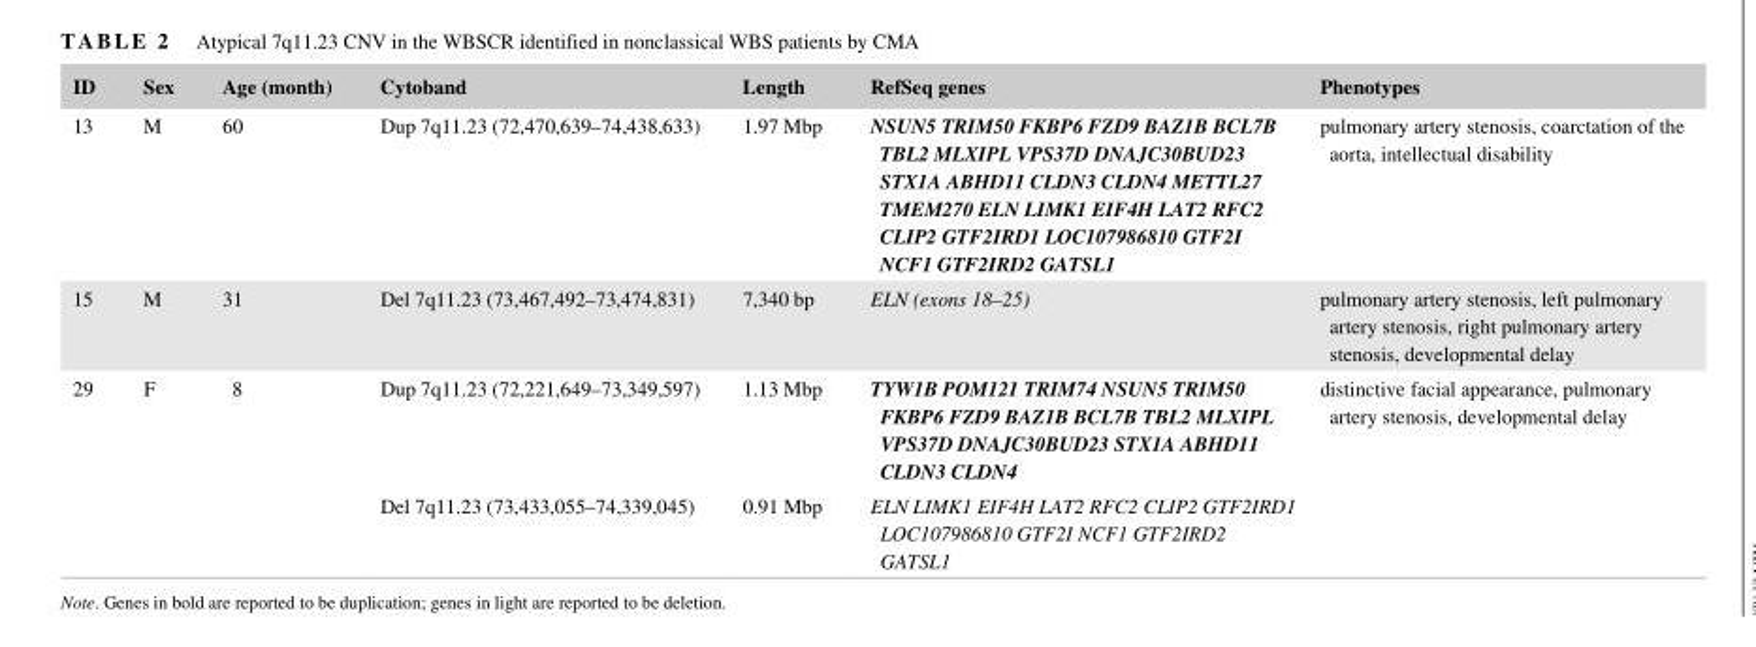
<table><thead><tr><td>ID</td><td>Sex</td><td>Age (month)</td><td>Cytoband</td><td>Length</td><td>RefSeq genes</td><td>Phenotypes</td></tr></thead><tbody><tr><td>13</td><td>M</td><td>60</td><td>Dup 7q11.23 (72,470,639–74,438,633)</td><td>1.97 Mbp</td><td>NSUN5 TRIM50 FKBP6 FZD9 BAZ1B BCL7B TBL2 MLXIPL VPS37D DNAJC30BUD23 STX1A ABHD11 CLDN3 CLDN4 METTL27 TMEM270 ELN LIMK1 EIF4H LAT2 RFC2 CLIP2 GTF2IRD1 LOC107986810 GTF2I NCF1 GTF2IRD2 GATSL1</td><td>pulmonary artery stenosis, coarctation of the aorta, intellectual disability</td></tr><tr><td>15</td><td>M</td><td>31</td><td>Del 7q11.23 (73,467,492–73,474,831)</td><td>7,340 bp</td><td>ELN (exons 18–25)</td><td>pulmonary artery stenosis, left pulmonary artery stenosis, right pulmonary artery stenosis, developmental delay</td></tr><tr><td rowspan="2">29</td><td rowspan="2">F</td><td rowspan="2">8</td><td>Dup 7q11.23 (72,221,649–73,349,597)</td><td>1.13 Mbp</td><td>TYW1B POM121 TRIM74 NSUN5 TRIM50 FKBP6 FZD9 BAZ1B BCL7B TBL2 MLXIPL VPS37D DNAJC30BUD23 STX1A ABHD11 CLDN3 CLDN4</td><td rowspan="2">distinctive facial appearance, pulmonary artery stenosis, developmental delay</td></tr><tr><td>Del 7q11.23 (73,433,055–74,339,045)</td><td>0.91 Mbp</td><td>ELN LIMK1 EIF4H LAT2 RFC2 CLIP2 GTF2IRD1 LOC107986810 GTF2I NCF1 GTF2IRD2 GATSL1</td></tr></tbody></table>